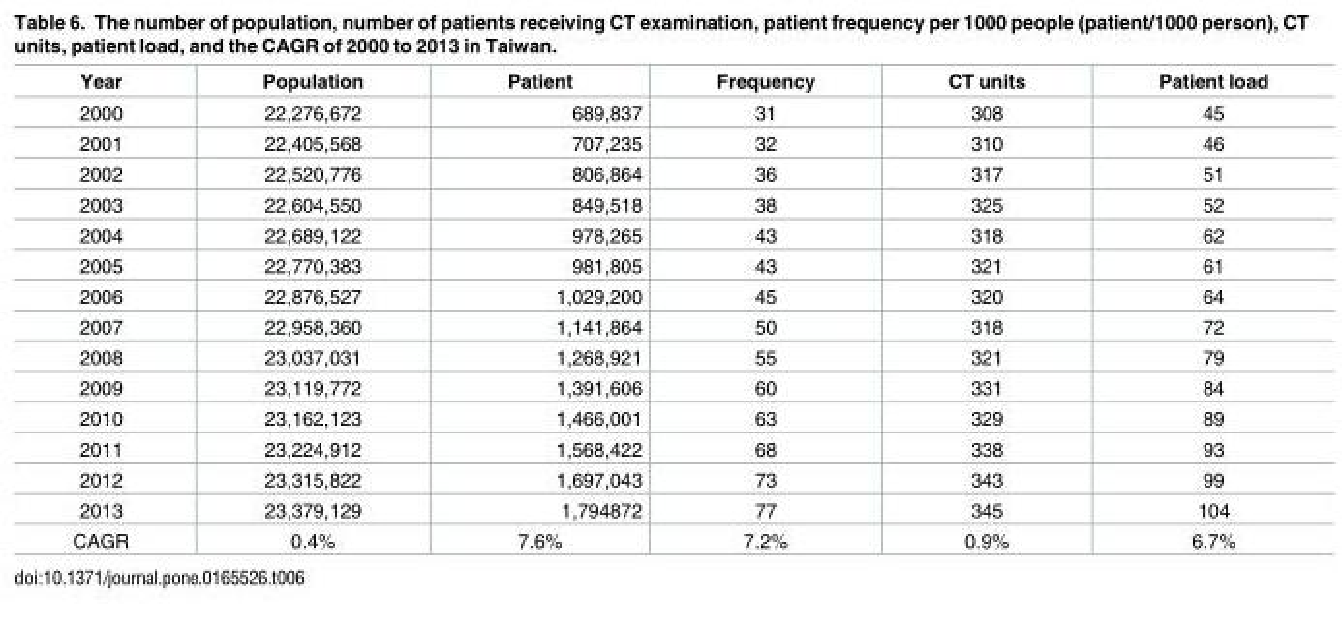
<table><thead><tr><td>Year</td><td>Population</td><td>Patient</td><td>Frequency</td><td>CT units</td><td>Patient load</td></tr></thead><tbody><tr><td>2000</td><td>22,276,672</td><td>689,837</td><td>31</td><td>308</td><td>45</td></tr><tr><td>2001</td><td>22,405,568</td><td>707,235</td><td>32</td><td>310</td><td>46</td></tr><tr><td>2002</td><td>22,520,776</td><td>806,864</td><td>36</td><td>317</td><td>51</td></tr><tr><td>2003</td><td>22,604,550</td><td>849,518</td><td>38</td><td>325</td><td>52</td></tr><tr><td>2004</td><td>22,689,122</td><td>978,265</td><td>43</td><td>318</td><td>62</td></tr><tr><td>2005</td><td>22,770,383</td><td>981,805</td><td>43</td><td>321</td><td>61</td></tr><tr><td>2006</td><td>22,876,527</td><td>1,029,200</td><td>45</td><td>320</td><td>64</td></tr><tr><td>2007</td><td>22,958,360</td><td>1,141,864</td><td>50</td><td>318</td><td>72</td></tr><tr><td>2008</td><td>23,037,031</td><td>1,268,921</td><td>55</td><td>321</td><td>79</td></tr><tr><td>2009</td><td>23,119,772</td><td>1,391,606</td><td>60</td><td>331</td><td>84</td></tr><tr><td>2010</td><td>23,162,123</td><td>1,466,001</td><td>63</td><td>329</td><td>89</td></tr><tr><td>2011</td><td>23,224,912</td><td>1,568,422</td><td>68</td><td>338</td><td>93</td></tr><tr><td>2012</td><td>23,315,822</td><td>1,697,043</td><td>73</td><td>343</td><td>99</td></tr><tr><td>2013</td><td>23,379,129</td><td>1,794872</td><td>77</td><td>345</td><td>104</td></tr><tr><td>CAGR</td><td>0.4%</td><td>7.6%</td><td>7.2%</td><td>0.9%</td><td>6.7%</td></tr></tbody></table>